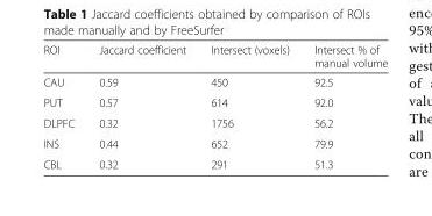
<table><thead><tr><td>ROI</td><td>Jaccard coefficient</td><td>Intersect (voxels)</td><td>Intersect % of manual volume</td></tr></thead><tbody><tr><td>CAU</td><td>0.59</td><td>450</td><td>92.5</td></tr><tr><td>PUT</td><td>0.57</td><td>614</td><td>92.0</td></tr><tr><td>DLPFC</td><td>0.32</td><td>1756</td><td>56.2</td></tr><tr><td>INS</td><td>0.44</td><td>652</td><td>79.9</td></tr><tr><td>CBL</td><td>0.32</td><td>291</td><td>51.3</td></tr></tbody></table>